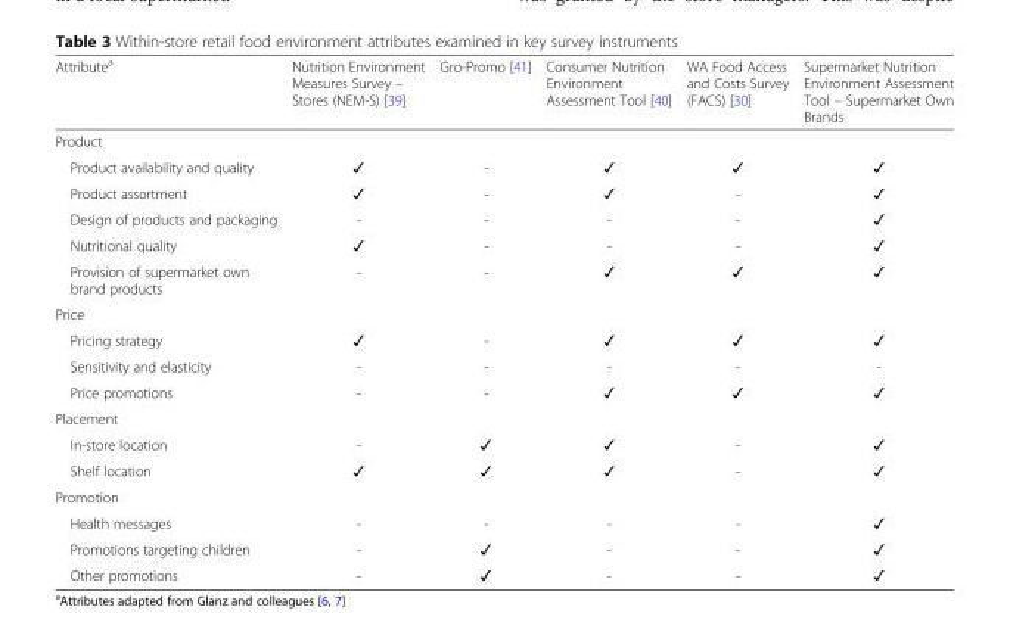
<table><thead><tr><td>Attribute<sup>a</sup></td><td>Nutrition Environment Measures Survey – Stores (NEM-S) [39]</td><td>Gro-Promo [41]</td><td>Consumer Nutrition Environment Assessment Tool [40]</td><td>WA Food Access and Costs Survey (FACS) [30]</td><td>Supermarket Nutrition Environment Assessment Tool – Supermarket Own Brands</td></tr></thead><tbody><tr><td colspan="6">Product</td></tr><tr><td>Product availability and quality</td><td>✓</td><td>-</td><td>✓</td><td>✓</td><td>✓</td></tr><tr><td>Product assortment</td><td>✓</td><td>-</td><td>✓</td><td>-</td><td>✓</td></tr><tr><td>Design of products and packaging</td><td>-</td><td>-</td><td>-</td><td>-</td><td>✓</td></tr><tr><td>Nutritional quality</td><td>✓</td><td>-</td><td>-</td><td>-</td><td>✓</td></tr><tr><td>Provision of supermarket own brand products</td><td>-</td><td>-</td><td>✓</td><td>✓</td><td>✓</td></tr><tr><td colspan="6">Price</td></tr><tr><td>Pricing strategy</td><td>✓</td><td>-</td><td>✓</td><td>✓</td><td>✓</td></tr><tr><td>Sensitivity and elasticity</td><td>-</td><td>-</td><td>-</td><td>-</td><td>-</td></tr><tr><td>Price promotions</td><td>-</td><td>-</td><td>✓</td><td>✓</td><td>✓</td></tr><tr><td colspan="6">Placement</td></tr><tr><td>In-store location</td><td>-</td><td>✓</td><td>✓</td><td>-</td><td>✓</td></tr><tr><td>Shelf location</td><td>✓</td><td>✓</td><td>✓</td><td>-</td><td>✓</td></tr><tr><td colspan="6">Promotion</td></tr><tr><td>Health messages</td><td>-</td><td>-</td><td>-</td><td>-</td><td>✓</td></tr><tr><td>Promotions targeting children</td><td>-</td><td>✓</td><td>-</td><td>-</td><td>✓</td></tr><tr><td>Other promotions</td><td>-</td><td>✓</td><td>-</td><td>-</td><td>✓</td></tr></tbody></table>